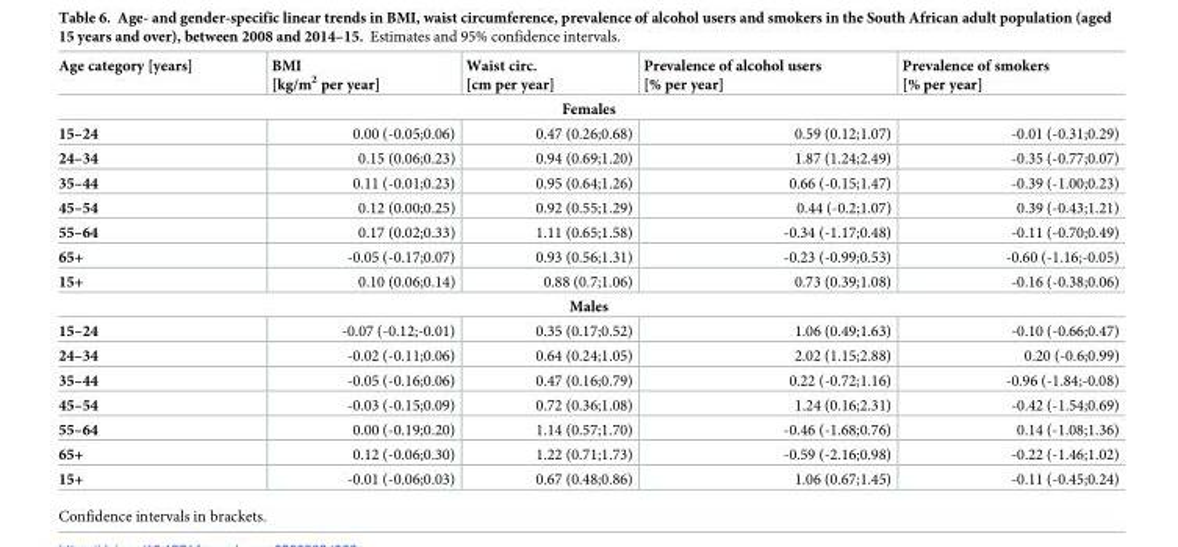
<table><thead><tr><td>Age category [years]</td><td>BMI [kg/m<sup>2</sup> per year]</td><td>Waist circ. [cm per year]</td><td>Prevalence of alcohol users [% per year]</td><td>Prevalence of smokers [% per year]</td></tr></thead><tbody><tr><td colspan="5">Females</td></tr><tr><td>15–24</td><td>0.00 (-0.05;0.06)</td><td>0.47 (0.26;0.68)</td><td>0.59 (0.12;1.07)</td><td>-0.01 (-0.31;0.29)</td></tr><tr><td>24–34</td><td>0.15 (0.06;0.23)</td><td>0.94 (0.69;1.20)</td><td>1.87 (1.24;2.49)</td><td>-0.35 (-0.77;0.07)</td></tr><tr><td>35–44</td><td>0.11 (-0.01;0.23)</td><td>0.95 (0.64;1.26)</td><td>0.66 (-0.15;1.47)</td><td>-0.39 (-1.00;0.23)</td></tr><tr><td>45–54</td><td>0.12 (0.00;0.25)</td><td>0.92 (0.55;1.29)</td><td>0.44 (-0.2;1.07)</td><td>0.39 (-0.43;1.21)</td></tr><tr><td>55–64</td><td>0.17 (0.02;0.33)</td><td>1.11 (0.65;1.58)</td><td>-0.34 (-1.17;0.48)</td><td>-0.11 (-0.70;0.49)</td></tr><tr><td>65+</td><td>-0.05 (-0.17;0.07)</td><td>0.93 (0.56;1.31)</td><td>-0.23 (-0.99;0.53)</td><td>-0.60 (-1.16;-0.05)</td></tr><tr><td>15+</td><td>0.10 (0.06;0.14)</td><td>0.88 (0.7;1.06)</td><td>0.73 (0.39;1.08)</td><td>-0.16 (-0.38;0.06)</td></tr><tr><td colspan="5">Males</td></tr><tr><td>15–24</td><td>-0.07 (-0.12;-0.01)</td><td>0.35 (0.17;0.52)</td><td>1.06 (0.49;1.63)</td><td>-0.10 (-0.66;0.47)</td></tr><tr><td>24–34</td><td>-0.02 (-0.11;0.06)</td><td>0.64 (0.24;1.05)</td><td>2.02 (1.15;2.88)</td><td>0.20 (-0.6;0.99)</td></tr><tr><td>35–44</td><td>-0.05 (-0.16;0.06)</td><td>0.47 (0.16;0.79)</td><td>0.22 (-0.72;1.16)</td><td>-0.96 (-1.84;-0.08)</td></tr><tr><td>45–54</td><td>-0.03 (-0.15;0.09)</td><td>0.72 (0.36;1.08)</td><td>1.24 (0.16;2.31)</td><td>-0.42 (-1.54;0.69)</td></tr><tr><td>55–64</td><td>0.00 (-0.19;0.20)</td><td>1.14 (0.57;1.70)</td><td>-0.46 (-1.68;0.76)</td><td>0.14 (-1.08;1.36)</td></tr><tr><td>65+</td><td>0.12 (-0.06;0.30)</td><td>1.22 (0.71;1.73)</td><td>-0.59 (-2.16;0.98)</td><td>-0.22 (-1.46;1.02)</td></tr><tr><td>15+</td><td>-0.01 (-0.06;0.03)</td><td>0.67 (0.48;0.86)</td><td>1.06 (0.67;1.45)</td><td>-0.11 (-0.45;0.24)</td></tr></tbody></table>